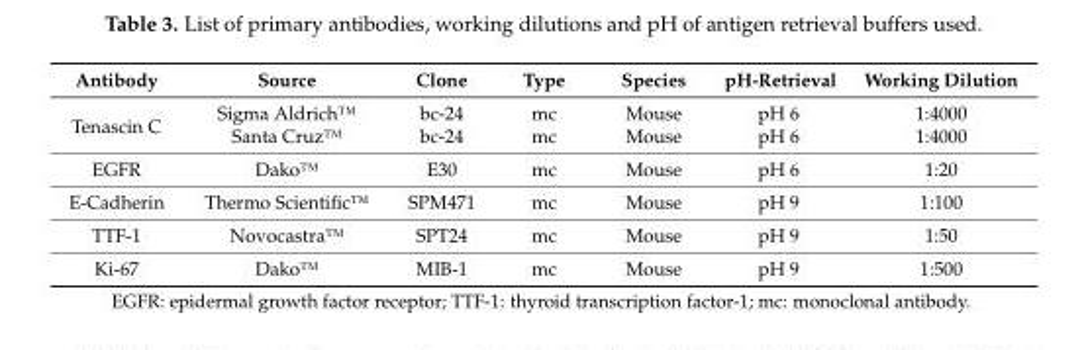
<table><thead><tr><td>Antibody</td><td>Source</td><td>Clone</td><td>Type</td><td>Species</td><td>pH-Retrieval</td><td>Working Dilution</td></tr></thead><tbody><tr><td rowspan="2">Tenascin C</td><td>Sigma Aldrich™</td><td>bc-24</td><td>mc</td><td>Mouse</td><td>pH 6</td><td>1:4000</td></tr><tr><td>Santa Cruz™</td><td>bc-24</td><td>mc</td><td>Mouse</td><td>pH 6</td><td>1:4000</td></tr><tr><td>EGFR</td><td>Dako™</td><td>E30</td><td>mc</td><td>Mouse</td><td>pH 6</td><td>1:20</td></tr><tr><td>E-Cadherin</td><td>Thermo Scientific™</td><td>SPM471</td><td>mc</td><td>Mouse</td><td>pH 9</td><td>1:100</td></tr><tr><td>TTF-1</td><td>Novocastra™</td><td>SPT24</td><td>mc</td><td>Mouse</td><td>pH 9</td><td>1:50</td></tr><tr><td>Ki-67</td><td>Dako™</td><td>MIB-1</td><td>mc</td><td>Mouse</td><td>pH 9</td><td>1:500</td></tr></tbody></table>